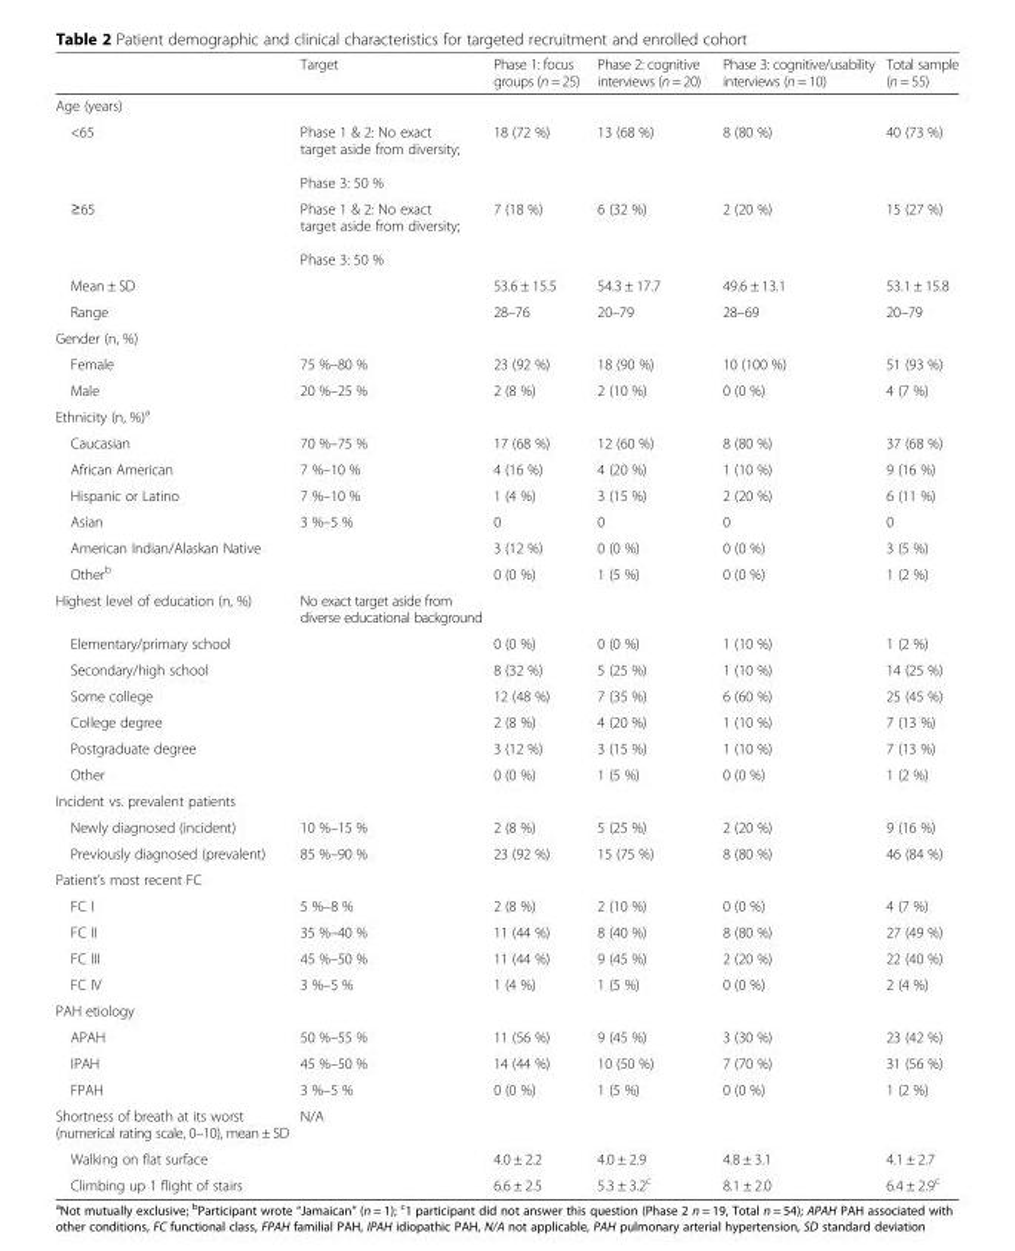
<table><thead><tr><td></td><td>Target</td><td>Phase 1: focus groups (n = 25)</td><td>Phase 2: cognitive interviews (n = 20)</td><td>Phase 3: cognitive/usability interviews (n = 10)</td><td>Total sample (n = 55)</td></tr></thead><tbody><tr><td colspan="6">Age (years)</td></tr><tr><td>&lt;65</td><td>Phase 1 &amp; 2: No exact target aside from diversity; Phase 3: 50 %</td><td>18 (72 %)</td><td>13 (68 %)</td><td>8 (80 %)</td><td>40 (73 %)</td></tr><tr><td>≥65</td><td>Phase 1 &amp; 2: No exact target aside from diversity; Phase 3: 50 %</td><td>7 (18 %)</td><td>6 (32 %)</td><td>2 (20 %)</td><td>15 (27 %)</td></tr><tr><td>Mean ± SD</td><td></td><td>53.6 ± 15.5</td><td>54.3 ± 17.7</td><td>49.6 ± 13.1</td><td>53.1 ± 15.8</td></tr><tr><td>Range</td><td></td><td>28–76</td><td>20–79</td><td>28–69</td><td>20–79</td></tr><tr><td colspan="6">Gender (n, %)</td></tr><tr><td>Female</td><td>75 %–80 %</td><td>23 (92 %)</td><td>18 (90 %)</td><td>10 (100 %)</td><td>51 (93 %)</td></tr><tr><td>Male</td><td>20 %–25 %</td><td>2 (8 %)</td><td>2 (10 %)</td><td>0 (0 %)</td><td>4 (7 %)</td></tr><tr><td colspan="6">Ethnicity (n, %)<sup>a</sup></td></tr><tr><td>Caucasian</td><td>70 %–75 %</td><td>17 (68 %)</td><td>12 (60 %)</td><td>8 (80 %)</td><td>37 (68 %)</td></tr><tr><td>African American</td><td>7 %–10 %</td><td>4 (16 %)</td><td>4 (20 %)</td><td>1 (10 %)</td><td>9 (16 %)</td></tr><tr><td>Hispanic or Latino</td><td>7 %–10 %</td><td>1 (4 %)</td><td>3 (15 %)</td><td>2 (20 %)</td><td>6 (11 %)</td></tr><tr><td>Asian</td><td>3 %–5 %</td><td>0</td><td>0</td><td>0</td><td>0</td></tr><tr><td>American Indian/Alaskan Native</td><td></td><td>3 (12 %)</td><td>0 (0 %)</td><td>0 (0 %)</td><td>3 (5 %)</td></tr><tr><td>Other<sup>b</sup></td><td></td><td>0 (0 %)</td><td>1 (5 %)</td><td>0 (0 %)</td><td>1 (2 %)</td></tr><tr><td>Highest level of education (n, %)</td><td>No exact target aside from diverse educational background</td><td></td><td></td><td></td><td></td></tr><tr><td>Elementary/primary school</td><td></td><td>0 (0 %)</td><td>0 (0 %)</td><td>1 (10 %)</td><td>1 (2 %)</td></tr><tr><td>Secondary/high school</td><td></td><td>8 (32 %)</td><td>5 (25 %)</td><td>1 (10 %)</td><td>14 (25 %)</td></tr><tr><td>Some college</td><td></td><td>12 (48 %)</td><td>7 (35 %)</td><td>6 (60 %)</td><td>25 (45 %)</td></tr><tr><td>College degree</td><td></td><td>2 (8 %)</td><td>4 (20 %)</td><td>1 (10 %)</td><td>7 (13 %)</td></tr><tr><td>Postgraduate degree</td><td></td><td>3 (12 %)</td><td>3 (15 %)</td><td>1 (10 %)</td><td>7 (13 %)</td></tr><tr><td>Other</td><td></td><td>0 (0 %)</td><td>1 (5 %)</td><td>0 (0 %)</td><td>1 (2 %)</td></tr><tr><td colspan="6">Incident vs. prevalent patients</td></tr><tr><td>Newly diagnosed (incident)</td><td>10 %–15 %</td><td>2 (8 %)</td><td>5 (25 %)</td><td>2 (20 %)</td><td>9 (16 %)</td></tr><tr><td>Previously diagnosed (prevalent)</td><td>85 %–90 %</td><td>23 (92 %)</td><td>15 (75 %)</td><td>8 (80 %)</td><td>46 (84 %)</td></tr><tr><td colspan="6">Patient’s most recent FC</td></tr><tr><td>FC I</td><td>5 %–8 %</td><td>2 (8 %)</td><td>2 (10 %)</td><td>0 (0 %)</td><td>4 (7 %)</td></tr><tr><td>FC II</td><td>35 %–40 %</td><td>11 (44 %)</td><td>8 (40 %)</td><td>8 (80 %)</td><td>27 (49 %)</td></tr><tr><td>FC III</td><td>45 %–50 %</td><td>11 (44 %)</td><td>9 (45 %)</td><td>2 (20 %)</td><td>22 (40 %)</td></tr><tr><td>FC IV</td><td>3 %–5 %</td><td>1 (4 %)</td><td>1 (5 %)</td><td>0 (0 %)</td><td>2 (4 %)</td></tr><tr><td colspan="6">PAH etiology</td></tr><tr><td>APAH</td><td>50 %–55 %</td><td>11 (56 %)</td><td>9 (45 %)</td><td>3 (30 %)</td><td>23 (42 %)</td></tr><tr><td>IPAH</td><td>45 %–50 %</td><td>14 (44 %)</td><td>10 (50 %)</td><td>7 (70 %)</td><td>31 (56 %)</td></tr><tr><td>FPAH</td><td>3 %–5 %</td><td>0 (0 %)</td><td>1 (5 %)</td><td>0 (0 %)</td><td>1 (2 %)</td></tr><tr><td>Shortness of breath at its worst (numerical rating scale, 0–10), mean ± SD</td><td>N/A</td><td></td><td></td><td></td><td></td></tr><tr><td>Walking on flat surface</td><td></td><td>4.0 ± 2.2</td><td>4.0 ± 2.9</td><td>4.8 ± 3.1</td><td>4.1 ± 2.7</td></tr><tr><td>Climbing up 1 flight of stairs</td><td></td><td>6.6 ± 2.5</td><td>5.3 ± 3.2<sup>c</sup></td><td>8.1 ± 2.0</td><td>6.4 ± 2.9<sup>c</sup></td></tr></tbody></table>